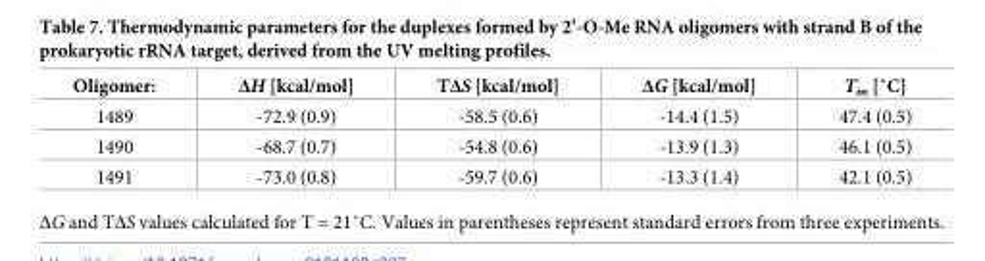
<table><thead><tr><td>Oligomer:</td><td>ΔH [kcal/mol]</td><td>TΔS [kcal/mol]</td><td>ΔG [kcal/mol]</td><td>Tm [˚C]</td></tr></thead><tbody><tr><td>1489</td><td>-72.9 (0.9)</td><td>-58.5 (0.6)</td><td>-14.4 (1.5)</td><td>47.4 (0.5)</td></tr><tr><td>1490</td><td>-68.7 (0.7)</td><td>-54.8 (0.6)</td><td>-13.9 (1.3)</td><td>46.1 (0.5)</td></tr><tr><td>1491</td><td>-73.0 (0.8)</td><td>-59.7 (0.6)</td><td>-13.3 (1.4)</td><td>42.1 (0.5)</td></tr></tbody></table>